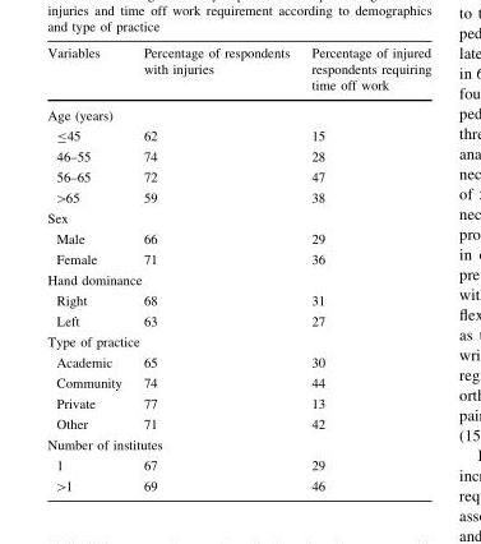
<table><thead><tr><td>Variables</td><td>Percentage of respondents with injuries</td><td>Percentage of injured respondents requiring time off work</td></tr></thead><tbody><tr><td colspan="3">Age (years)</td></tr><tr><td>≤45</td><td>62</td><td>15</td></tr><tr><td>46–55</td><td>74</td><td>28</td></tr><tr><td>56–65</td><td>72</td><td>47</td></tr><tr><td>&gt;65</td><td>59</td><td>38</td></tr><tr><td colspan="3">Sex</td></tr><tr><td>Male</td><td>66</td><td>29</td></tr><tr><td>Female</td><td>71</td><td>36</td></tr><tr><td colspan="3">Hand dominance</td></tr><tr><td>Right</td><td>68</td><td>31</td></tr><tr><td>Left</td><td>63</td><td>27</td></tr><tr><td colspan="3">Type of practice</td></tr><tr><td>Academic</td><td>65</td><td>30</td></tr><tr><td>Community</td><td>74</td><td>44</td></tr><tr><td>Private</td><td>77</td><td>13</td></tr><tr><td>Other</td><td>71</td><td>42</td></tr><tr><td colspan="3">Number of institutes</td></tr><tr><td>1</td><td>67</td><td>29</td></tr><tr><td>&gt;1</td><td>69</td><td>46</td></tr></tbody></table>